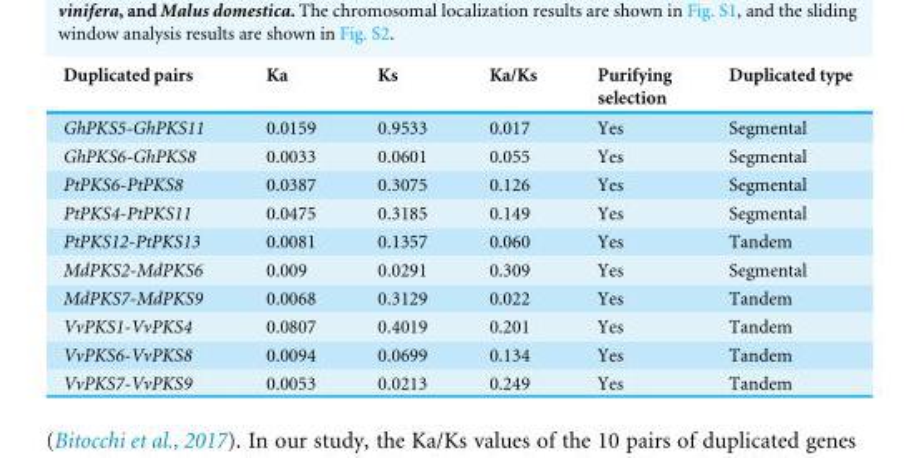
<table><thead><tr><td>Duplicated pairs</td><td>Ka</td><td>Ks</td><td>Ka/Ks</td><td>Purifying selection</td><td>Duplicated type</td></tr></thead><tbody><tr><td>GhPKS5-GhPKS11</td><td>0.0159</td><td>0.9533</td><td>0.017</td><td>Yes</td><td>Segmental</td></tr><tr><td>GhPKS6-GhPKS8</td><td>0.0033</td><td>0.0601</td><td>0.055</td><td>Yes</td><td>Segmental</td></tr><tr><td>PtPKS6-PtPKS8</td><td>0.0387</td><td>0.3075</td><td>0.126</td><td>Yes</td><td>Segmental</td></tr><tr><td>PtPKS4-PtPKS11</td><td>0.0475</td><td>0.3185</td><td>0.149</td><td>Yes</td><td>Segmental</td></tr><tr><td>PtPKS12-PtPKS13</td><td>0.0081</td><td>0.1357</td><td>0.060</td><td>Yes</td><td>Tandem</td></tr><tr><td>MdPKS2-MdPKS6</td><td>0.009</td><td>0.0291</td><td>0.309</td><td>Yes</td><td>Segmental</td></tr><tr><td>MdPKS7-MdPKS9</td><td>0.0068</td><td>0.3129</td><td>0.022</td><td>Yes</td><td>Tandem</td></tr><tr><td>VvPKS1-VvPKS4</td><td>0.0807</td><td>0.4019</td><td>0.201</td><td>Yes</td><td>Tandem</td></tr><tr><td>VvPKS6-VvPKS8</td><td>0.0094</td><td>0.0699</td><td>0.134</td><td>Yes</td><td>Tandem</td></tr><tr><td>VvPKS7-VvPKS9</td><td>0.0053</td><td>0.0213</td><td>0.249</td><td>Yes</td><td>Tandem</td></tr></tbody></table>